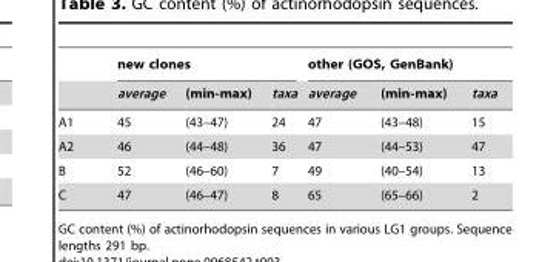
<table><thead><tr><td rowspan="2"></td><td colspan="3">new clones</td><td colspan="3">other (GOS, GenBank)</td></tr><tr><td>average</td><td>(min-max)</td><td>taxa</td><td>average</td><td>(min-max)</td><td>taxa</td></tr></thead><tbody><tr><td>A1</td><td>45</td><td>(43–47)</td><td>24</td><td>47</td><td>(43–48)</td><td>15</td></tr><tr><td>A2</td><td>46</td><td>(44–48)</td><td>36</td><td>47</td><td>(44–53)</td><td>47</td></tr><tr><td>B</td><td>52</td><td>(46–60)</td><td>7</td><td>49</td><td>(40–54)</td><td>13</td></tr><tr><td>C</td><td>47</td><td>(46–47)</td><td>8</td><td>65</td><td>(65–66)</td><td>2</td></tr></tbody></table>